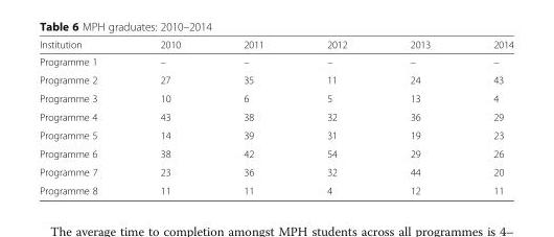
<table><thead><tr><td>Institution</td><td>2010</td><td>2011</td><td>2012</td><td>2013</td><td>2014</td></tr></thead><tbody><tr><td>Programme 1</td><td>–</td><td>–</td><td>–</td><td>–</td><td>–</td></tr><tr><td>Programme 2</td><td>27</td><td>35</td><td>11</td><td>24</td><td>43</td></tr><tr><td>Programme 3</td><td>10</td><td>6</td><td>5</td><td>13</td><td>4</td></tr><tr><td>Programme 4</td><td>43</td><td>38</td><td>32</td><td>36</td><td>29</td></tr><tr><td>Programme 5</td><td>14</td><td>39</td><td>31</td><td>19</td><td>23</td></tr><tr><td>Programme 6</td><td>38</td><td>42</td><td>54</td><td>29</td><td>26</td></tr><tr><td>Programme 7</td><td>23</td><td>36</td><td>32</td><td>44</td><td>20</td></tr><tr><td>Programme 8</td><td>11</td><td>11</td><td>4</td><td>12</td><td>11</td></tr></tbody></table>